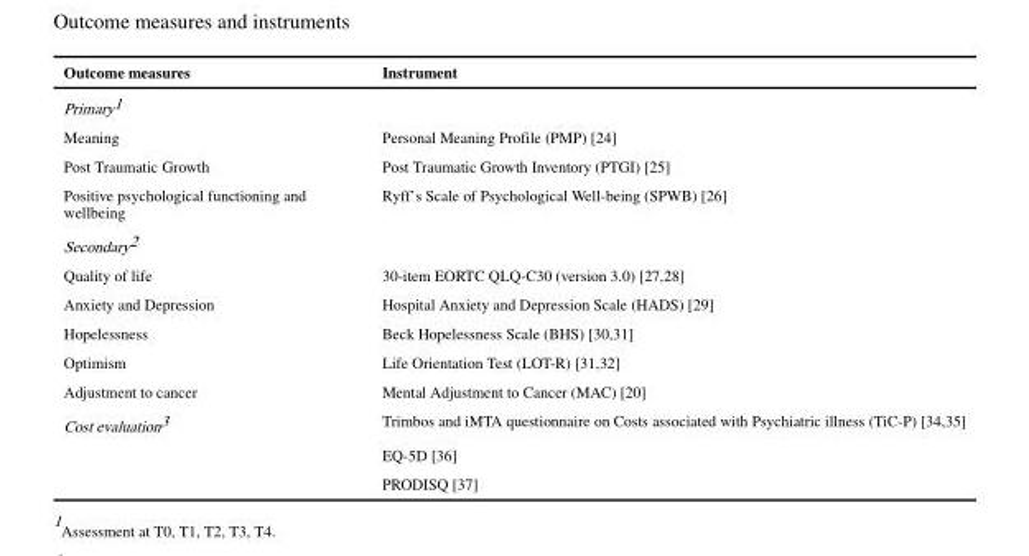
<table><thead><tr><td>Outcome measures</td><td>Instrument</td></tr></thead><tbody><tr><td colspan="2">Primary<sup>1</sup></td></tr><tr><td>Meaning</td><td>Personal Meaning Profile (PMP) [24]</td></tr><tr><td>Post Traumatic Growth</td><td>Post Traumatic Growth Inventory (PTGI) [25]</td></tr><tr><td>Positive psychological functioning and wellbeing</td><td>Ryff’s Scale of Psychological Well-being (SPWB) [26]</td></tr><tr><td colspan="2">Secondary<sup>2</sup></td></tr><tr><td>Quality of life</td><td>30-item EORTC QLQ-C30 (version 3.0) [27,28]</td></tr><tr><td>Anxiety and Depression</td><td>Hospital Anxiety and Depression Scale (HADS) [29]</td></tr><tr><td>Hopelessness</td><td>Beck Hopelessness Scale (BHS) [30,31]</td></tr><tr><td>Optimism</td><td>Life Orientation Test (LOT-R) [31,32]</td></tr><tr><td>Adjustment to cancer</td><td>Mental Adjustment to Cancer (MAC) [20]</td></tr><tr><td rowspan="3">Cost evaluation<sup>3</sup></td><td>Trimbos and iMTA questionnaire on Costs associated with Psychiatric illness (TiC-P) [34,35]</td></tr><tr><td>EQ-5D [36]</td></tr><tr><td>PRODISQ [37]</td></tr></tbody></table>